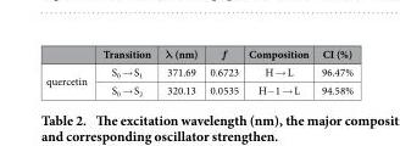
<table><thead><tr><td></td><td>Transition</td><td>λ (nm)</td><td>ƒ</td><td>Composition</td><td>CI (%)</td></tr></thead><tbody><tr><td rowspan="2">quercetin</td><td>S<sub>0</sub> → S<sub>1</sub></td><td>371.69</td><td>0.6723</td><td>H → L</td><td>96.47%</td></tr><tr><td>S<sub>0</sub> → S<sub>2</sub></td><td>320.13</td><td>0.0535</td><td>H− 1 → L</td><td>94.58%</td></tr></tbody></table>